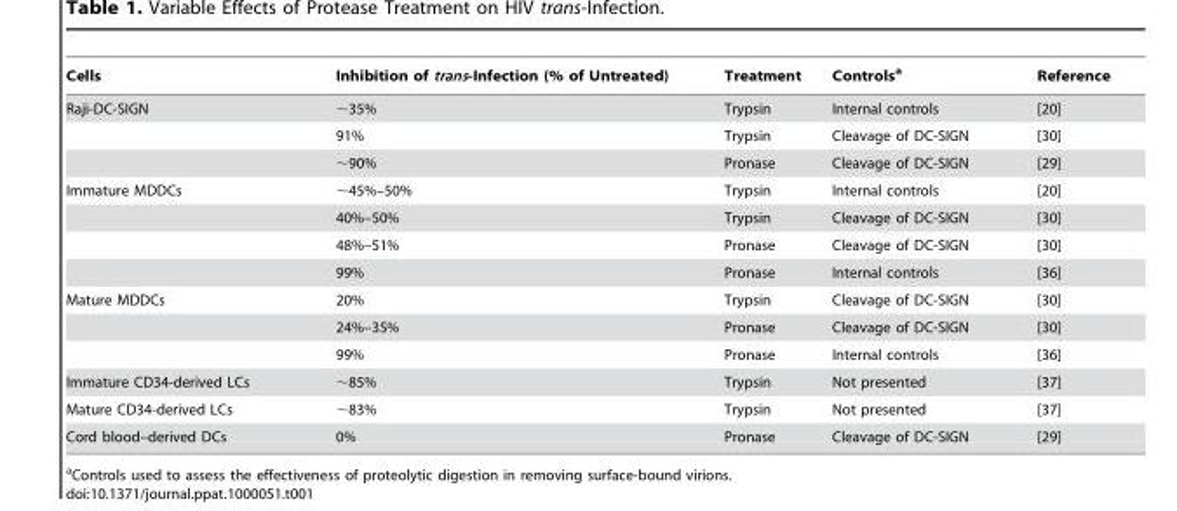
<table><thead><tr><td>Cells</td><td>Inhibition of trans-Infection (% of Untreated)</td><td>Treatment</td><td>Controls<sup>a</sup></td><td>Reference</td></tr></thead><tbody><tr><td rowspan="3">Raji-DC-SIGN</td><td>∼35%</td><td>Trypsin</td><td>Internal controls</td><td>[20]</td></tr><tr><td>91%</td><td>Trypsin</td><td>Cleavage of DC-SIGN</td><td>[30]</td></tr><tr><td>∼90%</td><td>Pronase</td><td>Cleavage of DC-SIGN</td><td>[29]</td></tr><tr><td rowspan="4">Immature MDDCs</td><td>∼45%–50%</td><td>Trypsin</td><td>Internal controls</td><td>[20]</td></tr><tr><td>40%–50%</td><td>Trypsin</td><td>Cleavage of DC-SIGN</td><td>[30]</td></tr><tr><td>48%–51%</td><td>Pronase</td><td>Cleavage of DC-SIGN</td><td>[30]</td></tr><tr><td>99%</td><td>Pronase</td><td>Internal controls</td><td>[36]</td></tr><tr><td rowspan="3">Mature MDDCs</td><td>20%</td><td>Trypsin</td><td>Cleavage of DC-SIGN</td><td>[30]</td></tr><tr><td>24%–35%</td><td>Pronase</td><td>Cleavage of DC-SIGN</td><td>[30]</td></tr><tr><td>99%</td><td>Pronase</td><td>Internal controls</td><td>[36]</td></tr><tr><td>Immature CD34-derived LCs</td><td>∼85%</td><td>Trypsin</td><td>Not presented</td><td>[37]</td></tr><tr><td>Mature CD34-derived LCs</td><td>∼83%</td><td>Trypsin</td><td>Not presented</td><td>[37]</td></tr><tr><td>Cord blood–derived DCs</td><td>0%</td><td>Pronase</td><td>Cleavage of DC-SIGN</td><td>[29]</td></tr></tbody></table>